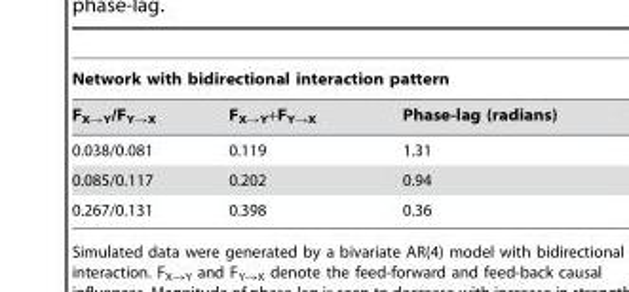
<table><thead><tr><td colspan="3">Network with bidirectional interaction pattern</td></tr><tr><td>F<sub>X→Y</sub>/F<sub>Y→X</sub></td><td>F<sub>X→Y</sub>+F<sub>Y→X</sub></td><td>Phase-lag (radians)</td></tr></thead><tbody><tr><td>0.038/0.081</td><td>0.119</td><td>1.31</td></tr><tr><td>0.085/0.117</td><td>0.202</td><td>0.94</td></tr><tr><td>0.267/0.131</td><td>0.398</td><td>0.36</td></tr></tbody></table>